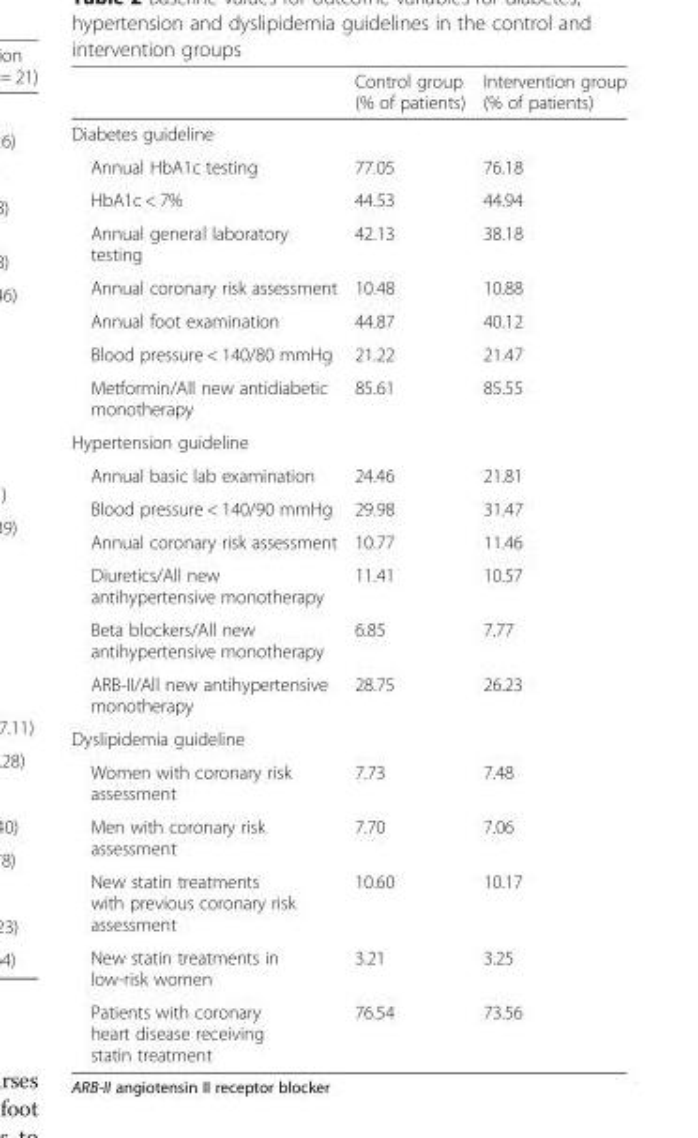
<table><thead><tr><td></td><td>Control group (% of patients)</td><td>Intervention group (% of patients)</td></tr></thead><tbody><tr><td colspan="3">Diabetes guideline</td></tr><tr><td>Annual HbA1c testing</td><td>77.05</td><td>76.18</td></tr><tr><td>HbA1c &lt; 7%</td><td>44.53</td><td>44.94</td></tr><tr><td>Annual general laboratory testing</td><td>42.13</td><td>38.18</td></tr><tr><td>Annual coronary risk assessment</td><td>10.48</td><td>10.88</td></tr><tr><td>Annual foot examination</td><td>44.87</td><td>40.12</td></tr><tr><td>Blood pressure &lt; 140/80 mmHg</td><td>21.22</td><td>21.47</td></tr><tr><td>Metformin/All new antidiabetic monotherapy</td><td>85.61</td><td>85.55</td></tr><tr><td colspan="3">Hypertension guideline</td></tr><tr><td>Annual basic lab examination</td><td>24.46</td><td>21.81</td></tr><tr><td>Blood pressure &lt; 140/90 mmHg</td><td>29.98</td><td>31.47</td></tr><tr><td>Annual coronary risk assessment</td><td>10.77</td><td>11.46</td></tr><tr><td>Diuretics/All new antihypertensive monotherapy</td><td>11.41</td><td>10.57</td></tr><tr><td>Beta blockers/All new antihypertensive monotherapy</td><td>6.85</td><td>7.77</td></tr><tr><td>ARB-II/All new antihypertensive monotherapy</td><td>28.75</td><td>26.23</td></tr><tr><td colspan="3">Dyslipidemia guideline</td></tr><tr><td>Women with coronary risk assessment</td><td>7.73</td><td>7.48</td></tr><tr><td>Men with coronary risk assessment</td><td>7.70</td><td>7.06</td></tr><tr><td>New statin treatments with previous coronary risk assessment</td><td>10.60</td><td>10.17</td></tr><tr><td>New statin treatments in low-risk women</td><td>3.21</td><td>3.25</td></tr><tr><td>Patients with coronary heart disease receiving statin treatment</td><td>76.54</td><td>73.56</td></tr></tbody></table>